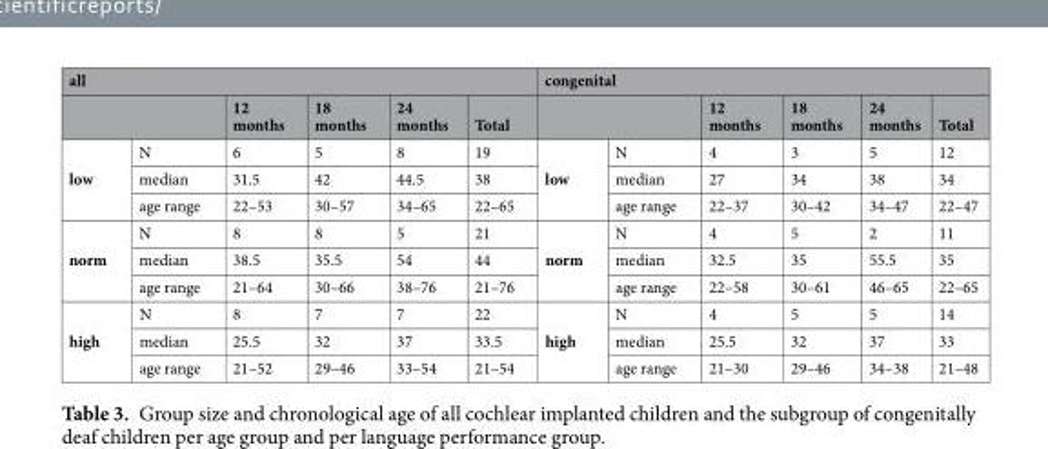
<table><thead><tr><td colspan="6">all</td><td colspan="6">congenital</td></tr><tr><td></td><td></td><td>12 months</td><td>18 months</td><td>24 months</td><td>Total</td><td></td><td></td><td>12 months</td><td>18 months</td><td>24 months</td><td>Total</td></tr></thead><tbody><tr><td rowspan="3">low</td><td>N</td><td>6</td><td>5</td><td>8</td><td>19</td><td rowspan="3">low</td><td>N</td><td>4</td><td>3</td><td>5</td><td>12</td></tr><tr><td>median</td><td>31.5</td><td>42</td><td>44.5</td><td>38</td><td>median</td><td>27</td><td>34</td><td>38</td><td>34</td></tr><tr><td>age range</td><td>22–53</td><td>30–57</td><td>34–65</td><td>22–65</td><td>age range</td><td>22–37</td><td>30–42</td><td>34–47</td><td>22–47</td></tr><tr><td rowspan="3">norm</td><td>N</td><td>8</td><td>8</td><td>5</td><td>21</td><td rowspan="3">norm</td><td>N</td><td>4</td><td>5</td><td>2</td><td>11</td></tr><tr><td>median</td><td>38.5</td><td>35.5</td><td>54</td><td>44</td><td>median</td><td>32.5</td><td>35</td><td>55.5</td><td>35</td></tr><tr><td>age range</td><td>21–64</td><td>30–66</td><td>38–76</td><td>21–76</td><td>age range</td><td>22–58</td><td>30–61</td><td>46–65</td><td>22–65</td></tr><tr><td rowspan="3">high</td><td>N</td><td>8</td><td>7</td><td>7</td><td>22</td><td rowspan="3">high</td><td>N</td><td>4</td><td>5</td><td>5</td><td>14</td></tr><tr><td>median</td><td>25.5</td><td>32</td><td>37</td><td>33.5</td><td>median</td><td>25.5</td><td>32</td><td>37</td><td>33</td></tr><tr><td>age range</td><td>21–52</td><td>29–46</td><td>33–54</td><td>21–54</td><td>age range</td><td>21–30</td><td>29–46</td><td>34–38</td><td>21–48</td></tr></tbody></table>